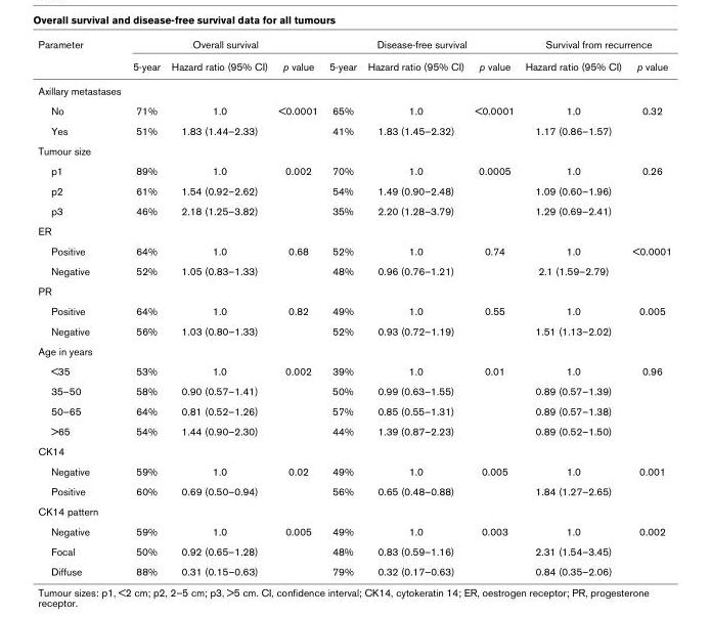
<table><thead><tr><td rowspan="2">Parameter</td><td colspan="3">Overall survival</td><td colspan="3">Disease-free survival</td><td colspan="2">Survival from recurrence</td></tr><tr><td>5-year</td><td>Hazard ratio (95% CI)</td><td>p value</td><td>5-year</td><td>Hazard ratio (95% CI)</td><td>p value</td><td>Hazard ratio (95% CI)</td><td>p value</td></tr></thead><tbody><tr><td colspan="9">Axillary metastases</td></tr><tr><td>No</td><td>71%</td><td>1.0</td><td>&lt;0.0001</td><td>65%</td><td>1.0</td><td>&lt;0.0001</td><td>1.0</td><td>0.32</td></tr><tr><td>Yes</td><td>51%</td><td>1.83 (1.44–2.33)</td><td></td><td>41%</td><td>1.83 (1.45–2.32)</td><td></td><td>1.17 (0.86–1.57)</td><td></td></tr><tr><td colspan="9">Tumour size</td></tr><tr><td>p1</td><td>89%</td><td>1.0</td><td>0.002</td><td>70%</td><td>1.0</td><td>0.0005</td><td>1.0</td><td>0.26</td></tr><tr><td>p2</td><td>61%</td><td>1.54 (0.92–2.62)</td><td></td><td>54%</td><td>1.49 (0.90–2.48)</td><td></td><td>1.09 (0.60–1.96)</td><td></td></tr><tr><td>p3</td><td>46%</td><td>2.18 (1.25–3.82)</td><td></td><td>35%</td><td>2.20 (1.28–3.79)</td><td></td><td>1.29 (0.69–2.41)</td><td></td></tr><tr><td colspan="9">ER</td></tr><tr><td>Positive</td><td>64%</td><td>1.0</td><td>0.68</td><td>52%</td><td>1.0</td><td>0.74</td><td>1.0</td><td>&lt;0.0001</td></tr><tr><td>Negative</td><td>52%</td><td>1.05 (0.83–1.33)</td><td></td><td>48%</td><td>0.96 (0.76–1.21)</td><td></td><td>2.1 (1.59–2.79)</td><td></td></tr><tr><td colspan="9">PR</td></tr><tr><td>Positive</td><td>64%</td><td>1.0</td><td>0.82</td><td>49%</td><td>1.0</td><td>0.55</td><td>1.0</td><td>0.005</td></tr><tr><td>Negative</td><td>56%</td><td>1.03 (0.80–1.33)</td><td></td><td>52%</td><td>0.93 (0.72–1.19)</td><td></td><td>1.51 (1.13–2.02)</td><td></td></tr><tr><td colspan="9">Age in years</td></tr><tr><td>&lt;35</td><td>53%</td><td>1.0</td><td>0.002</td><td>39%</td><td>1.0</td><td>0.01</td><td>1.0</td><td>0.96</td></tr><tr><td>35–50</td><td>58%</td><td>0.90 (0.57–1.41)</td><td></td><td>50%</td><td>0.99 (0.63–1.55)</td><td></td><td>0.89 (0.57–1.39)</td><td></td></tr><tr><td>50–65</td><td>64%</td><td>0.81 (0.52–1.26)</td><td></td><td>57%</td><td>0.85 (0.55–1.31)</td><td></td><td>0.89 (0.57–1.38)</td><td></td></tr><tr><td>&gt;65</td><td>54%</td><td>1.44 (0.90–2.30)</td><td></td><td>44%</td><td>1.39 (0.87–2.23)</td><td></td><td>0.89 (0.52–1.50)</td><td></td></tr><tr><td colspan="9">CK14</td></tr><tr><td>Negative</td><td>59%</td><td>1.0</td><td>0.02</td><td>49%</td><td>1.0</td><td>0.005</td><td>1.0</td><td>0.001</td></tr><tr><td>Positive</td><td>60%</td><td>0.69 (0.50–0.94)</td><td></td><td>56%</td><td>0.65 (0.48–0.88)</td><td></td><td>1.84 (1.27–2.65)</td><td></td></tr><tr><td colspan="9">CK14 pattern</td></tr><tr><td>Negative</td><td>59%</td><td>1.0</td><td>0.005</td><td>49%</td><td>1.0</td><td>0.003</td><td>1.0</td><td>0.002</td></tr><tr><td>Focal</td><td>50%</td><td>0.92 (0.65–1.28)</td><td></td><td>48%</td><td>0.83 (0.59–1.16)</td><td></td><td>2.31 (1.54–3.45)</td><td></td></tr><tr><td>Diffuse</td><td>88%</td><td>0.31 (0.15–0.63)</td><td></td><td>79%</td><td>0.32 (0.17–0.63)</td><td></td><td>0.84 (0.35–2.06)</td><td></td></tr></tbody></table>